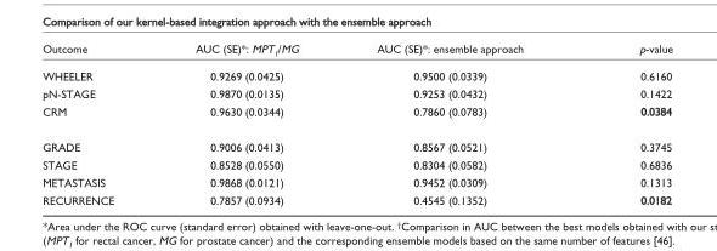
<table><thead><tr><td>Outcome</td><td>AUC (SE)*: MPT<sub>1</sub>/MG</td><td>AUC (SE)*: ensemble approach</td><td>p-value</td></tr></thead><tbody><tr><td>WHEELER</td><td>0.9269 (0.0425)</td><td>0.9500 (0.0339)</td><td>0.6160</td></tr><tr><td>pN-STAGE</td><td>0.9870 (0.0135)</td><td>0.9253 (0.0432)</td><td>0.1422</td></tr><tr><td>CRM</td><td>0.9630 (0.0344)</td><td>0.7860 (0.0783)</td><td>0.0384</td></tr><tr><td>GRADE</td><td>0.9006 (0.0413)</td><td>0.8567 (0.0521)</td><td>0.3745</td></tr><tr><td>STAGE</td><td>0.8528 (0.0550)</td><td>0.8304 (0.0582)</td><td>0.6836</td></tr><tr><td>METASTASIS</td><td>0.9868 (0.0121)</td><td>0.9452 (0.0309)</td><td>0.1313</td></tr><tr><td>RECURRENCE</td><td>0.7857 (0.0934)</td><td>0.4545 (0.1352)</td><td>0.0182</td></tr></tbody></table>